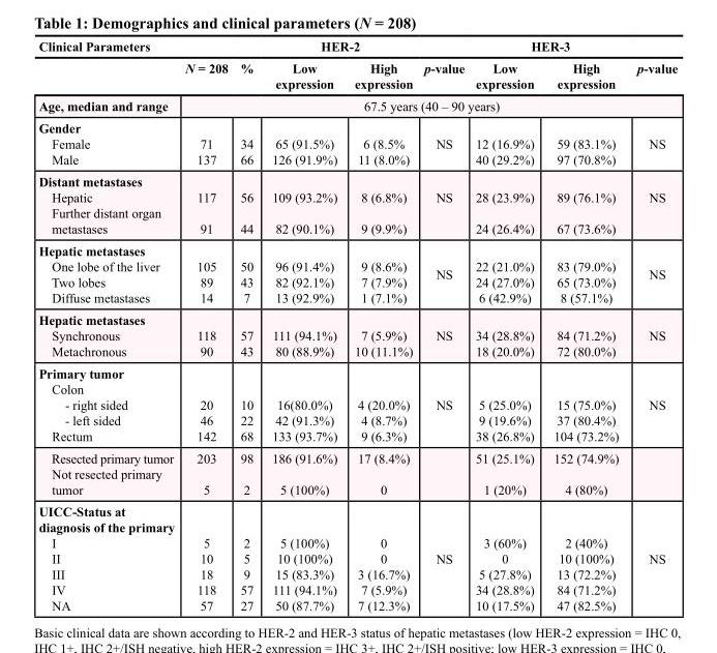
<table><thead><tr><td rowspan="2">Clinical Parameters</td><td colspan="5">HER-2</td><td colspan="3">HER-3</td></tr><tr><td>N = 208</td><td>%</td><td>Low expression</td><td>High expression</td><td>p-value</td><td>Low expression</td><td>High expression</td><td>p-value</td></tr></thead><tbody><tr><td>Age, median and range</td><td colspan="8">67.5 years (40 – 90 years)</td></tr><tr><td>Gender Female Male</td><td>71 137</td><td>34 66</td><td>65 (91.5%) 126 (91.9%)</td><td>6 (8.5% 11 (8.0%)</td><td>NS</td><td>12 (16.9%) 40 (29.2%)</td><td>59 (83.1%) 97 (70.8%)</td><td>NS</td></tr><tr><td>Distant metastases Hepatic Further distant organ metastases</td><td>117 91</td><td>56 44</td><td>109 (93.2%) 82 (90.1%)</td><td>8 (6.8%) 9 (9.9%)</td><td>NS</td><td>28 (23.9%) 24 (26.4%)</td><td>89 (76.1%) 67 (73.6%)</td><td>NS</td></tr><tr><td>Hepatic metastases One lobe of the liver Two lobes Diffuse metastases</td><td>105 89 14</td><td>50 43 7</td><td>96 (91.4%) 82 (92.1%) 13 (92.9%)</td><td>9 (8.6%) 7 (7.9%) 1 (7.1%)</td><td>NS</td><td>22 (21.0%) 24 (27.0%) 6 (42.9%)</td><td>83 (79.0%) 65 (73.0%) 8 (57.1%)</td><td>NS</td></tr><tr><td>Hepatic metastases Synchronous Metachronous</td><td>118 90</td><td>57 43</td><td>111 (94.1%) 80 (88.9%)</td><td>7 (5.9%) 10 (11.1%)</td><td>NS</td><td>34 (28.8%) 18 (20.0%)</td><td>84 (71.2%) 72 (80.0%)</td><td>NS</td></tr><tr><td>Primary tumor Colon right sided left sided Rectum</td><td>20 46 142</td><td>10 22 68</td><td>16(80.0%) 42 (91.3%) 133 (93.7%)</td><td>4 (20.0%) 4 (8.7%) 9 (6.3%)</td><td>NS</td><td>5 (25.0%) 9 (19.6%) 38 (26.8%)</td><td>15 (75.0%) 37 (80.4%) 104 (73.2%)</td><td>NS</td></tr><tr><td>Resected primary tumor Not resected primary tumor</td><td>203 5</td><td>98 2</td><td>186 (91.6%) 5 (100%)</td><td>17 (8.4%) 0</td><td></td><td>51 (25.1%) 1 (20%)</td><td>152 (74.9%) 4 (80%)</td><td></td></tr><tr><td>UICC-Status at diagnosis of the primary I II III IV NA</td><td>5 10 18 118 57</td><td>2 5 9 57 27</td><td>5 (100%) 10 (100%) 15 (83.3%) 111 (94.1%) 50 (87.7%)</td><td>0 0 3 (16.7%) 7 (5.9%) 7 (12.3%)</td><td>NS</td><td>3 (60%) 0 5 (27.8%) 34 (28.8%) 10 (17.5%)</td><td>2 (40%) 10 (100%) 13 (72.2%) 84 (71.2%) 47 (82.5%)</td><td>NS</td></tr></tbody></table>